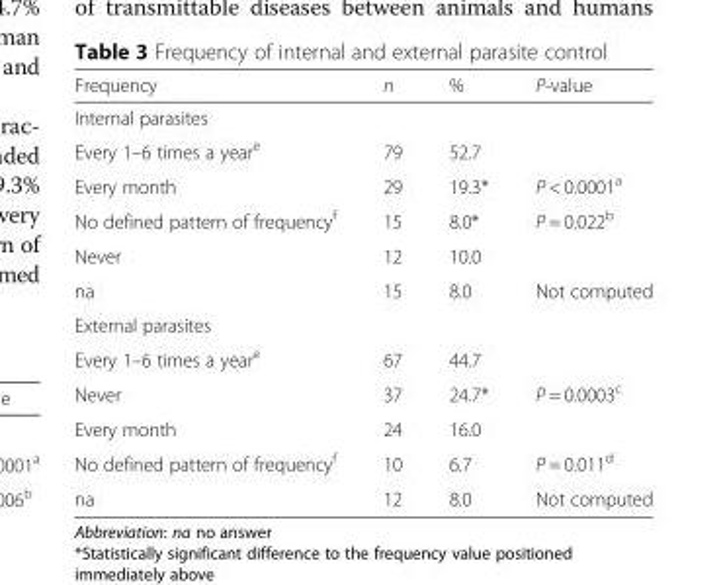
<table><thead><tr><td>Frequency</td><td>n</td><td>%</td><td>P-value</td></tr></thead><tbody><tr><td colspan="4">Internal parasites</td></tr><tr><td>Every 1–6 times a year<sup>e</sup></td><td>79</td><td>52.7</td><td></td></tr><tr><td>Every month</td><td>29</td><td>19.3*</td><td>P &lt; 0.0001<sup>a</sup></td></tr><tr><td>No defined pattern of frequency<sup>f</sup></td><td>15</td><td>8.0*</td><td>P = 0.022<sup>b</sup></td></tr><tr><td>Never</td><td>12</td><td>10.0</td><td></td></tr><tr><td>na</td><td>15</td><td>8.0</td><td>Not computed</td></tr><tr><td colspan="4">External parasites</td></tr><tr><td>Every 1–6 times a year<sup>e</sup></td><td>67</td><td>44.7</td><td></td></tr><tr><td>Never</td><td>37</td><td>24.7*</td><td>P = 0.0003<sup>c</sup></td></tr><tr><td>Every month</td><td>24</td><td>16.0</td><td></td></tr><tr><td>No defined pattern of frequency<sup>f</sup></td><td>10</td><td>6.7</td><td>P = 0.011<sup>d</sup></td></tr><tr><td>na</td><td>12</td><td>8.0</td><td>Not computed</td></tr></tbody></table>